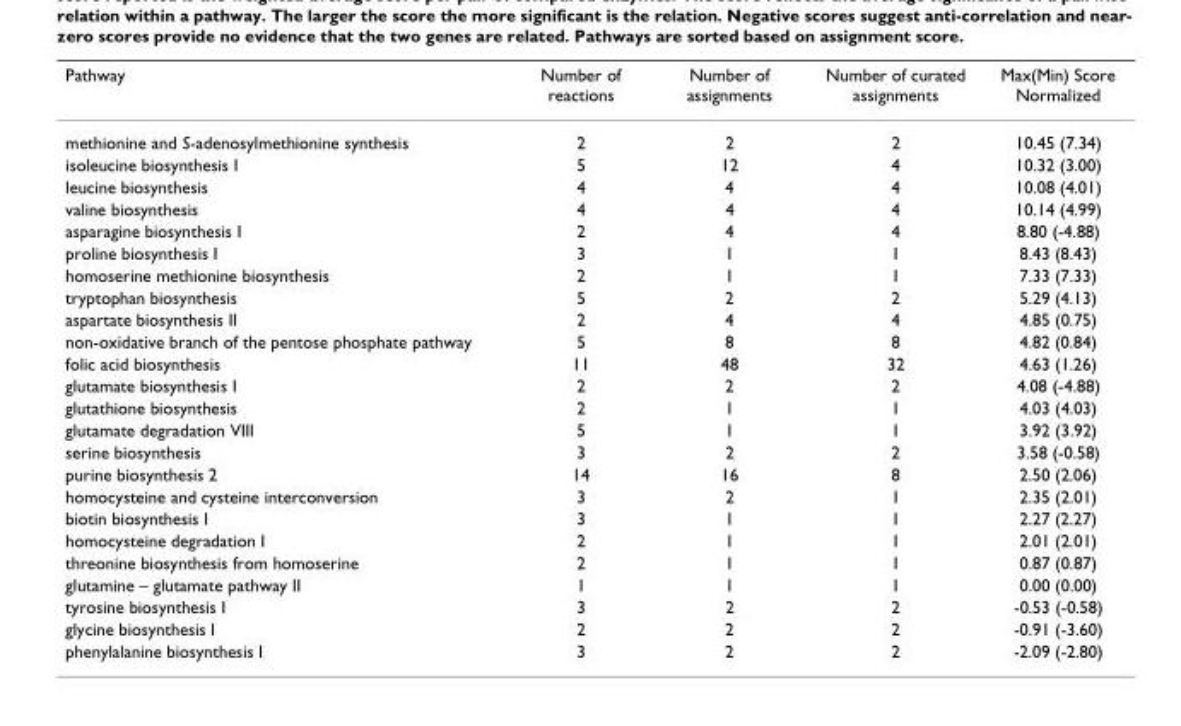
<table><thead><tr><td>Pathway</td><td>Number of reactions</td><td>Number of assignments</td><td>Number of curated assignments</td><td>Max(Min) Score Normalized</td></tr></thead><tbody><tr><td>methionine and S-adenosylmethionine synthesis</td><td>2</td><td>2</td><td>2</td><td>10.45 (7.34)</td></tr><tr><td>isoleucine biosynthesis I</td><td>5</td><td>12</td><td>4</td><td>10.32 (3.00)</td></tr><tr><td>leucine biosynthesis</td><td>4</td><td>4</td><td>4</td><td>10.08 (4.01)</td></tr><tr><td>valine biosynthesis</td><td>4</td><td>4</td><td>4</td><td>10.14 (4.99)</td></tr><tr><td>asparagine biosynthesis I</td><td>2</td><td>4</td><td>4</td><td>8.80 (-4.88)</td></tr><tr><td>proline biosynthesis I</td><td>3</td><td>1</td><td>1</td><td>8.43 (8.43)</td></tr><tr><td>homoserine methionine biosynthesis</td><td>2</td><td>1</td><td>1</td><td>7.33 (7.33)</td></tr><tr><td>tryptophan biosynthesis</td><td>5</td><td>2</td><td>2</td><td>5.29 (4.13)</td></tr><tr><td>aspartate biosynthesis II</td><td>2</td><td>4</td><td>4</td><td>4.85 (0.75)</td></tr><tr><td>non-oxidative branch of the pentose phosphate pathway</td><td>5</td><td>8</td><td>8</td><td>4.82 (0.84)</td></tr><tr><td>folic acid biosynthesis</td><td>11</td><td>48</td><td>32</td><td>4.63 (1.26)</td></tr><tr><td>glutamate biosynthesis I</td><td>2</td><td>2</td><td>2</td><td>4.08 (-4.88)</td></tr><tr><td>glutathione biosynthesis</td><td>2</td><td>1</td><td>1</td><td>4.03 (4.03)</td></tr><tr><td>glutamate degradation VIII</td><td>5</td><td>1</td><td>1</td><td>3.92 (3.92)</td></tr><tr><td>serine biosynthesis</td><td>3</td><td>2</td><td>2</td><td>3.58 (-0.58)</td></tr><tr><td>purine biosynthesis 2</td><td>14</td><td>16</td><td>8</td><td>2.50 (2.06)</td></tr><tr><td>homocysteine and cysteine interconversion</td><td>3</td><td>2</td><td>1</td><td>2.35 (2.01)</td></tr><tr><td>biotin biosynthesis I</td><td>3</td><td>1</td><td>1</td><td>2.27 (2.27)</td></tr><tr><td>homocysteine degradation I</td><td>2</td><td>1</td><td>1</td><td>2.01 (2.01)</td></tr><tr><td>threonine biosynthesis from homoserine</td><td>2</td><td>1</td><td>1</td><td>0.87 (0.87)</td></tr><tr><td>glutamine – glutamate pathway II</td><td>1</td><td>1</td><td>1</td><td>0.00 (0.00)</td></tr><tr><td>tyrosine biosynthesis I</td><td>3</td><td>2</td><td>2</td><td>-0.53 (-0.58)</td></tr><tr><td>glycine biosynthesis I</td><td>2</td><td>2</td><td>2</td><td>-0.91 (-3.60)</td></tr><tr><td>phenylalanine biosynthesis I</td><td>3</td><td>2</td><td>2</td><td>-2.09 (-2.80)</td></tr></tbody></table>